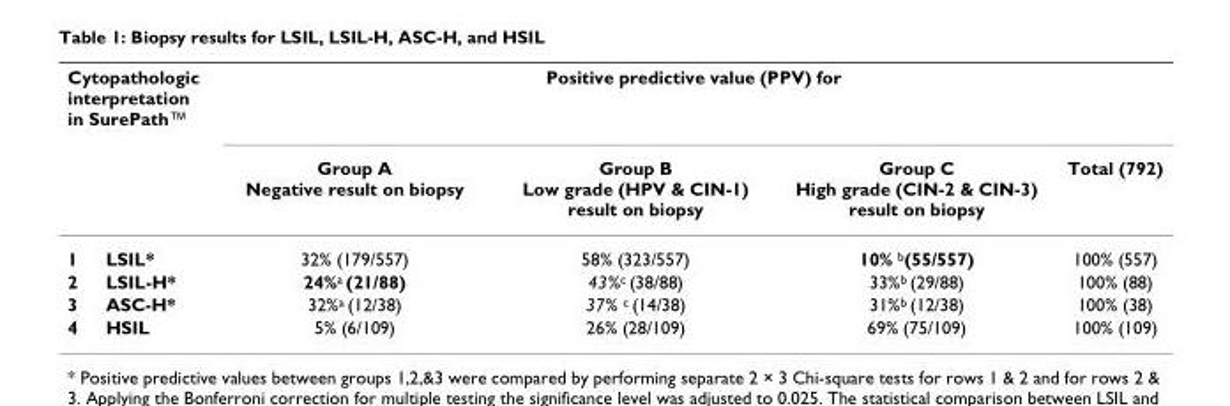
<table><thead><tr><td colspan="2">Cytopathologic interpretation in SurePath™</td><td colspan="4">Positive predictive value (PPV) for</td></tr><tr><td></td><td></td><td>Group A Negative result on biopsy</td><td>Group B Low grade (HPV &amp; CIN-1) result on biopsy</td><td>Group C High grade (CIN-2 &amp; CIN-3) result on biopsy</td><td>Total (792)</td></tr></thead><tbody><tr><td>1</td><td>LSIL*</td><td>32% (179/557)</td><td>58% (323/557)</td><td>10% <sup>b</sup>(55/557)</td><td>100% (557)</td></tr><tr><td>2</td><td>LSIL-H*</td><td>24%<sup>a</sup> (21/88)</td><td>43%<sup>c</sup> (38/88)</td><td>33%<sup>b</sup> (29/88)</td><td>100% (88)</td></tr><tr><td>3</td><td>ASC-H*</td><td>32%<sup>a</sup> (12/38)</td><td>37% <sup>c</sup> (14/38)</td><td>31%<sup>b</sup> (12/38)</td><td>100% (38)</td></tr><tr><td>4</td><td>HSIL</td><td>5% (6/109)</td><td>26% (28/109)</td><td>69% (75/109)</td><td>100% (109)</td></tr></tbody></table>